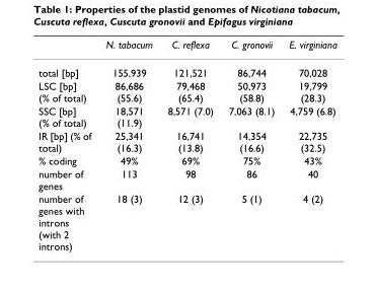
<table><thead><tr><td></td><td>N. tabacum</td><td>C. reflexa</td><td>C. gronovii</td><td>E. virginiana</td></tr></thead><tbody><tr><td>total [bp]</td><td>155,939</td><td>121,521</td><td>86,744</td><td>70,028</td></tr><tr><td>LSC [bp] (% of total)</td><td>86,686 (55.6)</td><td>79,468 (65.4)</td><td>50,973 (58.8)</td><td>19,799 (28.3)</td></tr><tr><td>SSC [bp] (% of total)</td><td>18,571 (11.9)</td><td>8,571 (7.0)</td><td>7,063 (8.1)</td><td>4,759 (6.8)</td></tr><tr><td>IR [bp] (% of total)</td><td>25,341 (16.3)</td><td>16,741 (13.8)</td><td>14,354 (16.6)</td><td>22,735 (32.5)</td></tr><tr><td>% coding</td><td>49%</td><td>69%</td><td>75%</td><td>43%</td></tr><tr><td>number of genes</td><td>113</td><td>98</td><td>86</td><td>40</td></tr><tr><td>number of genes with introns (with 2 introns)</td><td>18 (3)</td><td>12 (3)</td><td>5 (1)</td><td>4 (2)</td></tr></tbody></table>